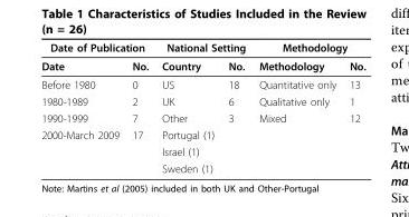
<table><thead><tr><td colspan="2">Date of Publication</td><td colspan="2">National Setting</td><td colspan="2">Methodology</td></tr><tr><td>Date</td><td>No.</td><td>Country</td><td>No.</td><td>Methodology</td><td>No.</td></tr></thead><tbody><tr><td>Before 1980</td><td>0</td><td>US</td><td>18</td><td>Quantitative only</td><td>13</td></tr><tr><td>1980-1989</td><td>2</td><td>UK</td><td>6</td><td>Qualitative only</td><td>1</td></tr><tr><td>1990-1999</td><td>7</td><td>Other</td><td>3</td><td>Mixed</td><td>12</td></tr><tr><td rowspan="3">2000-March 2009</td><td>17</td><td>Portugal (1)</td><td></td><td></td><td></td></tr><tr><td></td><td>Israel (1)</td><td></td><td></td><td></td></tr><tr><td></td><td>Sweden (1)</td><td></td><td></td><td></td></tr></tbody></table>